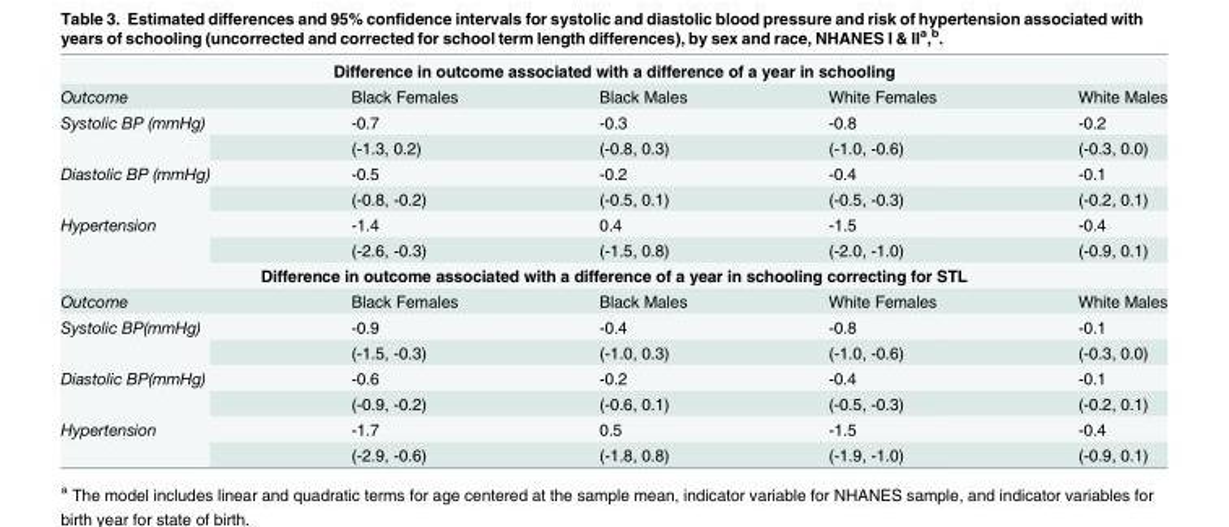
<table><tbody><tr><td colspan="5">Difference in outcome associated with a difference of a year in schooling</td></tr><tr><td>Outcome</td><td>Black Females</td><td>Black Males</td><td>White Females</td><td>White Males</td></tr><tr><td rowspan="2">Systolic BP (mmHg)</td><td>-0.7</td><td>-0.3</td><td>-0.8</td><td>-0.2</td></tr><tr><td>(-1.3, 0.2)</td><td>(-0.8, 0.3)</td><td>(-1.0, -0.6)</td><td>(-0.3, 0.0)</td></tr><tr><td rowspan="2">Diastolic BP (mmHg)</td><td>-0.5</td><td>-0.2</td><td>-0.4</td><td>-0.1</td></tr><tr><td>(-0.8, -0.2)</td><td>(-0.5, 0.1)</td><td>(-0.5, -0.3)</td><td>(-0.2, 0.1)</td></tr><tr><td rowspan="2">Hypertension</td><td>-1.4</td><td>0.4</td><td>-1.5</td><td>-0.4</td></tr><tr><td>(-2.6, -0.3)</td><td>(-1.5, 0.8)</td><td>(-2.0, -1.0)</td><td>(-0.9, 0.1)</td></tr><tr><td colspan="5">Difference in outcome associated with a difference of a year in schooling correcting for STL</td></tr><tr><td>Outcome</td><td>Black Females</td><td>Black Males</td><td>White Females</td><td>White Males</td></tr><tr><td rowspan="2">Systolic BP(mmHg)</td><td>-0.9</td><td>-0.4</td><td>-0.8</td><td>-0.1</td></tr><tr><td>(-1.5, -0.3)</td><td>(-1.0, 0.3)</td><td>(-1.0, -0.6)</td><td>(-0.3, 0.0)</td></tr><tr><td rowspan="2">Diastolic BP(mmHg)</td><td>-0.6</td><td>-0.2</td><td>-0.4</td><td>-0.1</td></tr><tr><td>(-0.9, -0.2)</td><td>(-0.6, 0.1)</td><td>(-0.5, -0.3)</td><td>(-0.2, 0.1)</td></tr><tr><td rowspan="2">Hypertension</td><td>-1.7</td><td>0.5</td><td>-1.5</td><td>-0.4</td></tr><tr><td>(-2.9, -0.6)</td><td>(-1.8, 0.8)</td><td>(-1.9, -1.0)</td><td>(-0.9, 0.1)</td></tr></tbody></table>